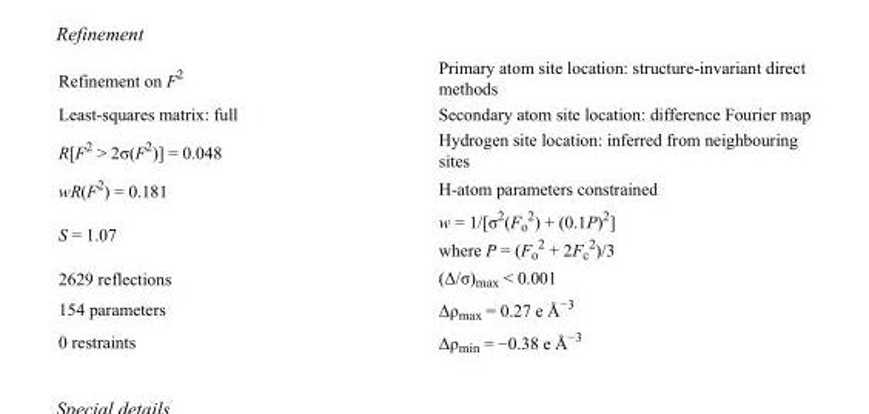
<table><tbody><tr><td>Refinement on F<sup>2</sup></td><td>Primary atom site location: structure-invariant direct methods</td></tr><tr><td>Least-squares matrix: full</td><td>Secondary atom site location: difference Fourier map</td></tr><tr><td>R[F<sup>2</sup> &gt; 2σ(F<sup>2</sup>)] = 0.048</td><td>Hydrogen site location: inferred from neighbouring sites</td></tr><tr><td>wR(F<sup>2</sup>) = 0.181</td><td>H-atom parameters constrained</td></tr><tr><td>S = 1.07</td><td>w = 1/[σ<sup>2</sup>(F<sub>o</sub> <sup>2</sup>) + (0.1P)<sup>2</sup>] where P = (F<sub>o</sub> <sup>2</sup> + 2F<sub>c</sub> <sup>2</sup>)/3</td></tr><tr><td>2629 reflections</td><td>(Δ/σ)<sub>max</sub> &lt; 0.001</td></tr><tr><td>154 parameters</td><td>Δρ<sub>max</sub> = 0.27 e Å<sup>−3</sup></td></tr><tr><td>0 restraints</td><td>Δρmin = −0.38 e Å−3</td></tr></tbody></table>